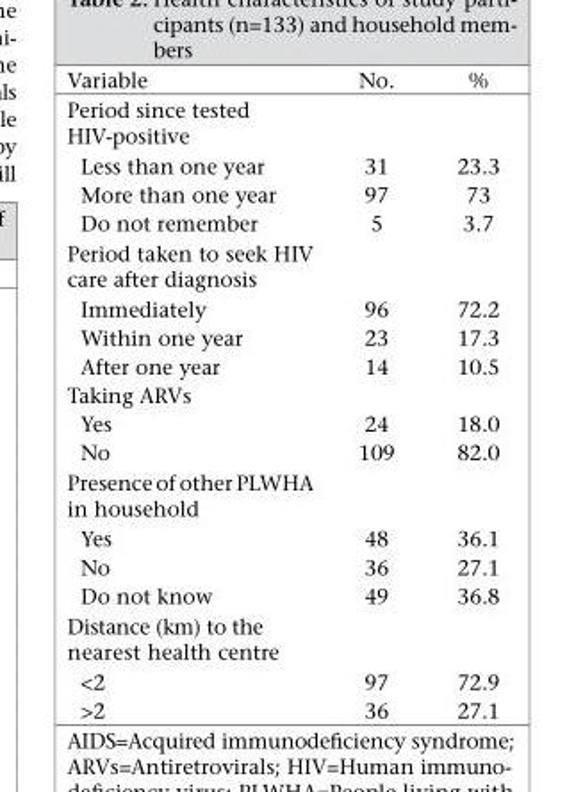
<table><thead><tr><td>Variable</td><td>No.</td><td>%</td></tr></thead><tbody><tr><td colspan="3">Period since tested HIV-positive</td></tr><tr><td>Less than one year</td><td>31</td><td>23.3</td></tr><tr><td>More than one year</td><td>97</td><td>73</td></tr><tr><td>Do not remember</td><td>5</td><td>3.7</td></tr><tr><td colspan="3">Period taken to seek HIV care after diagnosis</td></tr><tr><td>Immediately</td><td>96</td><td>72.2</td></tr><tr><td>Within one year</td><td>23</td><td>17.3</td></tr><tr><td>After one year</td><td>14</td><td>10.5</td></tr><tr><td colspan="3">Taking ARVs</td></tr><tr><td>Yes</td><td>24</td><td>18.0</td></tr><tr><td>No</td><td>109</td><td>82.0</td></tr><tr><td colspan="3">Presence of other PLWHA in household</td></tr><tr><td>Yes</td><td>48</td><td>36.1</td></tr><tr><td>No</td><td>36</td><td>27.1</td></tr><tr><td>Do not know</td><td>49</td><td>36.8</td></tr><tr><td colspan="3">Distance (km) to the nearest health centre</td></tr><tr><td>&lt;2</td><td>97</td><td>72.9</td></tr><tr><td>&gt;2</td><td>36</td><td>27.1</td></tr></tbody></table>